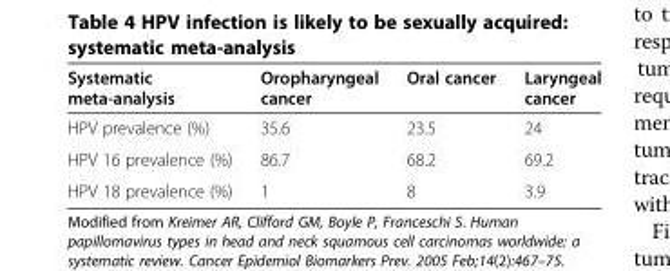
<table><thead><tr><td>Systematic meta-analysis</td><td>Oropharyngeal cancer</td><td>Oral cancer</td><td>Laryngeal cancer</td></tr></thead><tbody><tr><td>HPV prevalence (%)</td><td>35.6</td><td>23.5</td><td>24</td></tr><tr><td>HPV 16 prevalence (%)</td><td>86.7</td><td>68.2</td><td>69.2</td></tr><tr><td>HPV 18 prevalence (%)</td><td>1</td><td>8</td><td>3.9</td></tr></tbody></table>